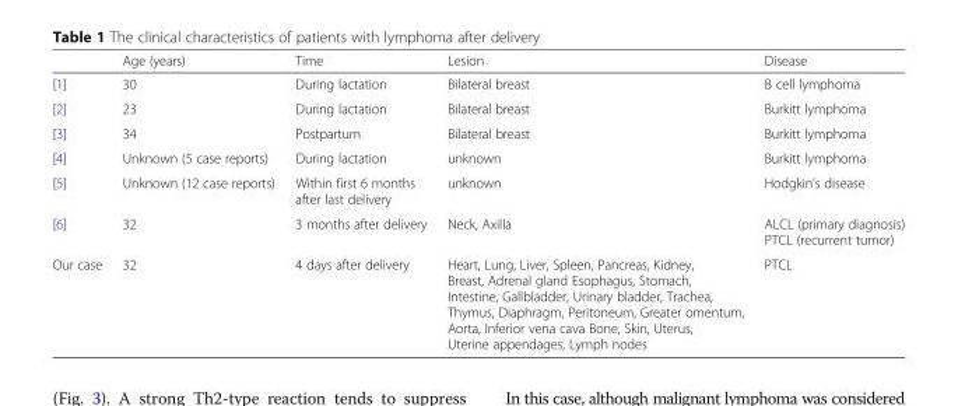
<table><thead><tr><td></td><td>Age (years)</td><td>Time</td><td>Lesion</td><td>Disease</td></tr></thead><tbody><tr><td>[1]</td><td>30</td><td>During lactation</td><td>Bilateral breast</td><td>B cell lymphoma</td></tr><tr><td>[2]</td><td>23</td><td>During lactation</td><td>Bilateral breast</td><td>Burkitt lymphoma</td></tr><tr><td>[3]</td><td>34</td><td>Postpartum</td><td>Bilateral breast</td><td>Burkitt lymphoma</td></tr><tr><td>[4]</td><td>Unknown (5 case reports)</td><td>During lactation</td><td>unknown</td><td>Burkitt lymphoma</td></tr><tr><td>[5]</td><td>Unknown (12 case reports)</td><td>Within first 6 months after last delivery</td><td>unknown</td><td>Hodgkin’s disease</td></tr><tr><td>[6]</td><td>32</td><td>3 months after delivery</td><td>Neck, Axilla</td><td>ALCL (primary diagnosis) PTCL (recurrent tumor)</td></tr><tr><td>Our case</td><td>32</td><td>4 days after delivery</td><td>Heart, Lung, Liver, Spleen, Pancreas, Kidney, Breast, Adrenal gland Esophagus, Stomach, Intestine, Gallbladder, Urinary bladder, Trachea, Thymus, Diaphragm, Peritoneum, Greater omentum, Aorta, Inferior vena cava Bone, Skin, Uterus, Uterine appendages, Lymph nodes</td><td>PTCL</td></tr></tbody></table>